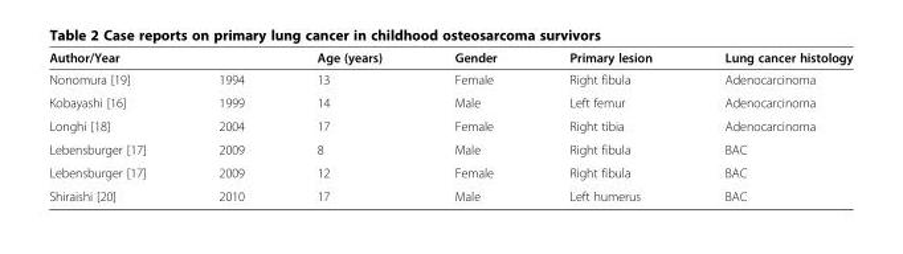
<table><thead><tr><td colspan="2">Author/Year</td><td rowspan="2">Age (years) 13</td><td rowspan="2">Gender Female</td><td rowspan="2">Primary lesion Right fibula</td><td rowspan="2">Lung cancer histology Adenocarcinoma</td></tr><tr><td>Nonomura [19]</td><td>1994</td></tr></thead><tbody><tr><td>Kobayashi [16]</td><td>1999</td><td>14</td><td>Male</td><td>Left femur</td><td>Adenocarcinoma</td></tr><tr><td>Longhi [18]</td><td>2004</td><td>17</td><td>Female</td><td>Right tibia</td><td>Adenocarcinoma</td></tr><tr><td>Lebensburger [17]</td><td>2009</td><td>8</td><td>Male</td><td>Right fibula</td><td>BAC</td></tr><tr><td>Lebensburger [17]</td><td>2009</td><td>12</td><td>Female</td><td>Right fibula</td><td>BAC</td></tr><tr><td>Shiraishi [20]</td><td>2010</td><td>17</td><td>Male</td><td>Left humerus</td><td>BAC</td></tr></tbody></table>